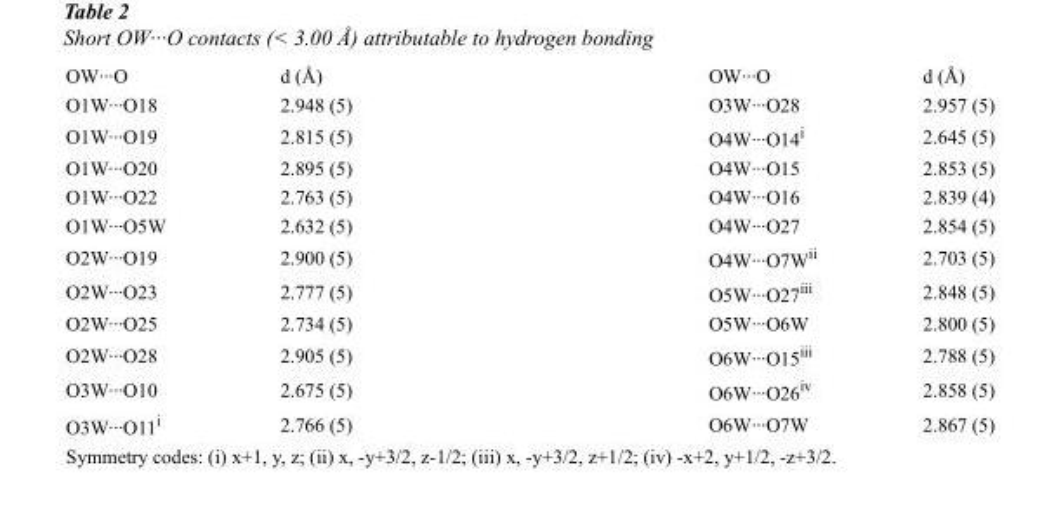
<table><tbody><tr><td>OW···O</td><td>d (Å)</td><td>OW···O</td><td>d (Å)</td></tr><tr><td>O1W···O18</td><td>2.948 (5)</td><td>O3W···O28</td><td>2.957 (5)</td></tr><tr><td>O1W···O19</td><td>2.815 (5)</td><td>O4W···O14<sup>i</sup></td><td>2.645 (5)</td></tr><tr><td>O1W···O20</td><td>2.895 (5)</td><td>O4W···O15</td><td>2.853 (5)</td></tr><tr><td>O1W···O22</td><td>2.763 (5)</td><td>O4W···O16</td><td>2.839 (4)</td></tr><tr><td>O1W···O5W</td><td>2.632 (5)</td><td>O4W···O27</td><td>2.854 (5)</td></tr><tr><td>O2W···O19</td><td>2.900 (5)</td><td>O4W···O7W<sup>ii</sup></td><td>2.703 (5)</td></tr><tr><td>O2W···O23</td><td>2.777 (5)</td><td>O5W···O27<sup>iii</sup></td><td>2.848 (5)</td></tr><tr><td>O2W···O25</td><td>2.734 (5)</td><td>O5W···O6W</td><td>2.800 (5)</td></tr><tr><td>O2W···O28</td><td>2.905 (5)</td><td>O6W···O15<sup>iii</sup></td><td>2.788 (5)</td></tr><tr><td>O3W···O10</td><td>2.675 (5)</td><td>O6W···O26<sup>iv</sup></td><td>2.858 (5)</td></tr><tr><td>O3W···O11<sup>i</sup></td><td>2.766 (5)</td><td>O6W···O7W</td><td>2.867 (5)</td></tr></tbody></table>